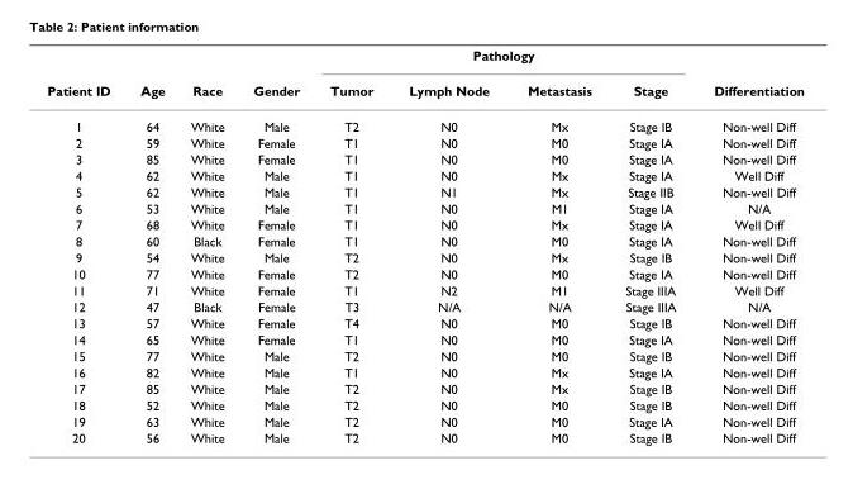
<table><thead><tr><td rowspan="2">Patient ID</td><td rowspan="2">Age</td><td rowspan="2">Race</td><td rowspan="2">Gender</td><td colspan="4">Pathology</td><td rowspan="2">Differentiation</td></tr><tr><td>Tumor</td><td>Lymph Node</td><td>Metastasis</td><td>Stage</td></tr></thead><tbody><tr><td>1</td><td>64</td><td>White</td><td>Male</td><td>T2</td><td>N0</td><td>Mx</td><td>Stage IB</td><td>Non-well Diff</td></tr><tr><td>2</td><td>59</td><td>White</td><td>Female</td><td>T1</td><td>N0</td><td>M0</td><td>Stage IA</td><td>Non-well Diff</td></tr><tr><td>3</td><td>85</td><td>White</td><td>Female</td><td>T1</td><td>N0</td><td>M0</td><td>Stage IA</td><td>Non-well Diff</td></tr><tr><td>4</td><td>62</td><td>White</td><td>Male</td><td>T1</td><td>N0</td><td>Mx</td><td>Stage IA</td><td>Well Diff</td></tr><tr><td>5</td><td>62</td><td>White</td><td>Male</td><td>T1</td><td>N1</td><td>Mx</td><td>Stage IIB</td><td>Non-well Diff</td></tr><tr><td>6</td><td>53</td><td>White</td><td>Male</td><td>T1</td><td>N0</td><td>M1</td><td>Stage IA</td><td>N/A</td></tr><tr><td>7</td><td>68</td><td>White</td><td>Female</td><td>T1</td><td>N0</td><td>Mx</td><td>Stage IA</td><td>Well Diff</td></tr><tr><td>8</td><td>60</td><td>Black</td><td>Female</td><td>T1</td><td>N0</td><td>M0</td><td>Stage IA</td><td>Non-well Diff</td></tr><tr><td>9</td><td>54</td><td>White</td><td>Male</td><td>T2</td><td>N0</td><td>Mx</td><td>Stage IB</td><td>Non-well Diff</td></tr><tr><td>10</td><td>77</td><td>White</td><td>Female</td><td>T2</td><td>N0</td><td>M0</td><td>Stage IA</td><td>Non-well Diff</td></tr><tr><td>11</td><td>71</td><td>White</td><td>Female</td><td>T1</td><td>N2</td><td>M1</td><td>Stage IIIA</td><td>Well Diff</td></tr><tr><td>12</td><td>47</td><td>Black</td><td>Female</td><td>T3</td><td>N/A</td><td>N/A</td><td>Stage IIIA</td><td>N/A</td></tr><tr><td>13</td><td>57</td><td>White</td><td>Female</td><td>T4</td><td>N0</td><td>M0</td><td>Stage IB</td><td>Non-well Diff</td></tr><tr><td>14</td><td>65</td><td>White</td><td>Female</td><td>T1</td><td>N0</td><td>M0</td><td>Stage IA</td><td>Non-well Diff</td></tr><tr><td>15</td><td>77</td><td>White</td><td>Male</td><td>T2</td><td>N0</td><td>M0</td><td>Stage IB</td><td>Non-well Diff</td></tr><tr><td>16</td><td>82</td><td>White</td><td>Male</td><td>T1</td><td>N0</td><td>Mx</td><td>Stage IA</td><td>Non-well Diff</td></tr><tr><td>17</td><td>85</td><td>White</td><td>Male</td><td>T2</td><td>N0</td><td>Mx</td><td>Stage IB</td><td>Non-well Diff</td></tr><tr><td>18</td><td>52</td><td>White</td><td>Male</td><td>T2</td><td>N0</td><td>M0</td><td>Stage IB</td><td>Non-well Diff</td></tr><tr><td>19</td><td>63</td><td>White</td><td>Male</td><td>T2</td><td>N0</td><td>M0</td><td>Stage IA</td><td>Non-well Diff</td></tr><tr><td>20</td><td>56</td><td>White</td><td>Male</td><td>T2</td><td>N0</td><td>M0</td><td>Stage IB</td><td>Non-well Diff</td></tr></tbody></table>